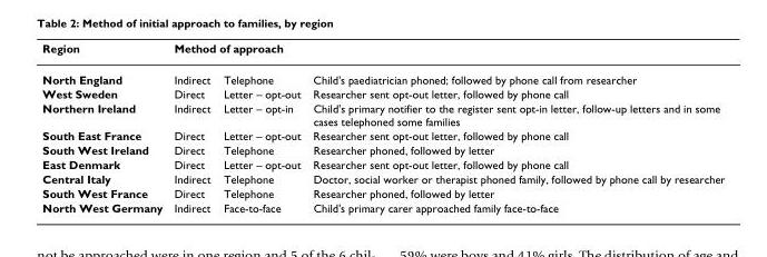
<table><thead><tr><td rowspan="2">Region North England</td><td colspan="3">Method of approach</td></tr><tr><td>Indirect</td><td>Telephone</td><td>Child&#x27;s paediatrician phoned; followed by phone call from researcher</td></tr></thead><tbody><tr><td>West Sweden</td><td>Direct</td><td>Letter – opt-out</td><td>Researcher sent opt-out letter, followed by phone call</td></tr><tr><td>Northern Ireland</td><td>Indirect</td><td>Letter – opt-in</td><td>Child&#x27;s primary notifier to the register sent opt-in letter, follow-up letters and in some cases telephoned some families</td></tr><tr><td>South East France</td><td>Direct</td><td>Letter – opt-out</td><td>Researcher sent opt-out letter, followed by phone call</td></tr><tr><td>South West Ireland</td><td>Direct</td><td>Telephone</td><td>Researcher phoned, followed by letter</td></tr><tr><td>East Denmark</td><td>Direct</td><td>Letter – opt-out</td><td>Researcher sent opt-out letter, followed by phone call</td></tr><tr><td>Central Italy</td><td>Indirect</td><td>Telephone</td><td>Doctor, social worker or therapist phoned family, followed by phone call by researcher</td></tr><tr><td>South West France</td><td>Direct</td><td>Telephone</td><td>Researcher phoned, followed by letter</td></tr><tr><td>North West Germany</td><td>Indirect</td><td>Face-to-face</td><td>Child&#x27;s primary carer approached family face-to-face</td></tr></tbody></table>